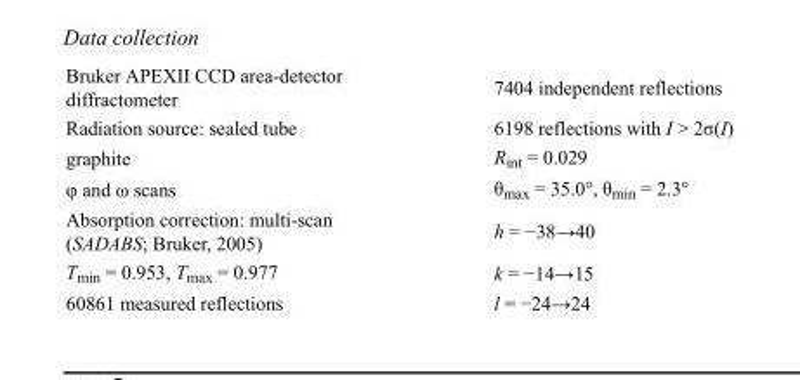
<table><tbody><tr><td>Bruker APEXII CCD area-detector diffractometer</td><td>7404 independent reflections</td></tr><tr><td>Radiation source: sealed tube</td><td>6198 reflections with I &gt; 2σ(I)</td></tr><tr><td>graphite</td><td>R<sub>int</sub> = 0.029</td></tr><tr><td>φ and ω scans</td><td>θ<sub>max</sub> = 35.0°, θ<sub>min</sub> = 2.3°</td></tr><tr><td>Absorption correction: multi-scan (SADABS; Bruker, 2005)</td><td>h = −38→40</td></tr><tr><td>T<sub>min</sub> = 0.953, T<sub>max</sub> = 0.977</td><td>k = −14→15</td></tr><tr><td>60861 measured reflections</td><td>l = −24→24</td></tr></tbody></table>